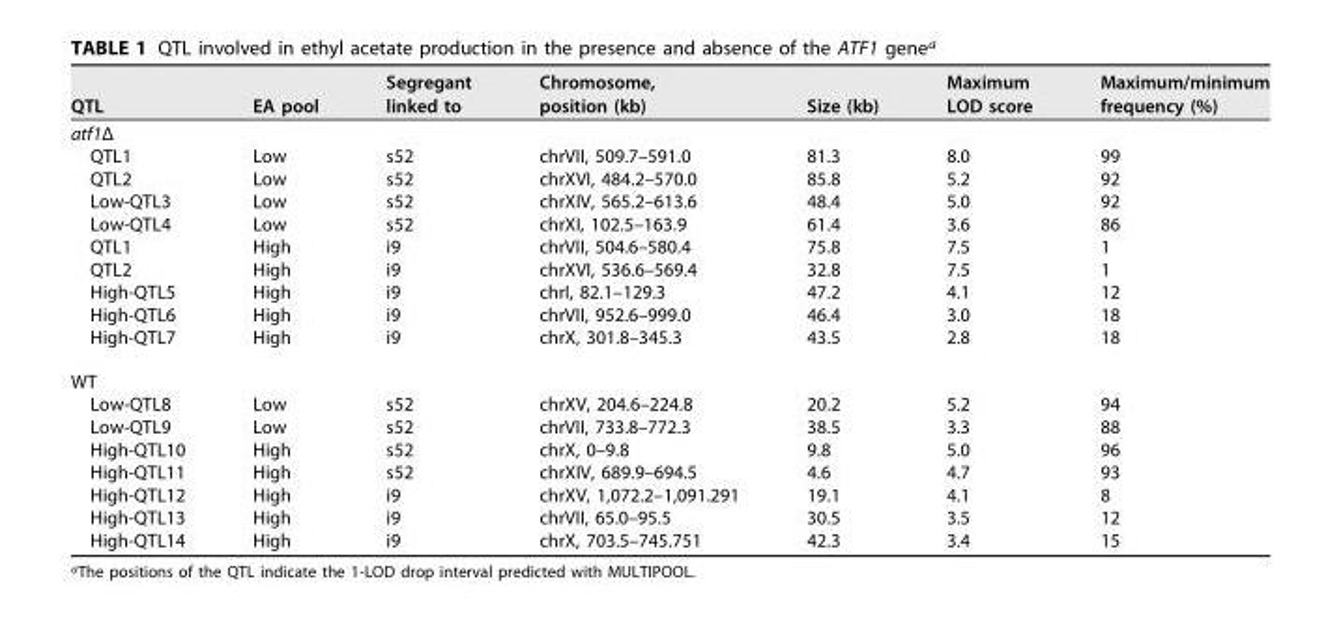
<table><thead><tr><td>QTL</td><td>EA pool</td><td>Segregant linked to</td><td>Chromosome, position (kb)</td><td>Size (kb)</td><td>Maximum LOD score</td><td>Maximum/minimum frequency (%)</td></tr></thead><tbody><tr><td colspan="7">atf1Δ</td></tr><tr><td>QTL1</td><td>Low</td><td>s52</td><td>chrVII, 509.7–591.0</td><td>81.3</td><td>8.0</td><td>99</td></tr><tr><td>QTL2</td><td>Low</td><td>s52</td><td>chrXVI, 484.2–570.0</td><td>85.8</td><td>5.2</td><td>92</td></tr><tr><td>Low-QTL3</td><td>Low</td><td>s52</td><td>chrXIV, 565.2–613.6</td><td>48.4</td><td>5.0</td><td>92</td></tr><tr><td>Low-QTL4</td><td>Low</td><td>s52</td><td>chrXI, 102.5–163.9</td><td>61.4</td><td>3.6</td><td>86</td></tr><tr><td>QTL1</td><td>High</td><td>i9</td><td>chrVII, 504.6–580.4</td><td>75.8</td><td>7.5</td><td>1</td></tr><tr><td>QTL2</td><td>High</td><td>i9</td><td>chrXVI, 536.6–569.4</td><td>32.8</td><td>7.5</td><td>1</td></tr><tr><td>High-QTL5</td><td>High</td><td>i9</td><td>chrI, 82.1–129.3</td><td>47.2</td><td>4.1</td><td>12</td></tr><tr><td>High-QTL6</td><td>High</td><td>i9</td><td>chrVII, 952.6–999.0</td><td>46.4</td><td>3.0</td><td>18</td></tr><tr><td>High-QTL7</td><td>High</td><td>i9</td><td>chrX, 301.8–345.3</td><td>43.5</td><td>2.8</td><td>18</td></tr><tr><td colspan="7">WT</td></tr><tr><td>Low-QTL8</td><td>Low</td><td>s52</td><td>chrXV, 204.6–224.8</td><td>20.2</td><td>5.2</td><td>94</td></tr><tr><td>Low-QTL9</td><td>Low</td><td>s52</td><td>chrVII, 733.8–772.3</td><td>38.5</td><td>3.3</td><td>88</td></tr><tr><td>High-QTL10</td><td>High</td><td>s52</td><td>chrX, 0–9.8</td><td>9.8</td><td>5.0</td><td>96</td></tr><tr><td>High-QTL11</td><td>High</td><td>s52</td><td>chrXIV, 689.9–694.5</td><td>4.6</td><td>4.7</td><td>93</td></tr><tr><td>High-QTL12</td><td>High</td><td>i9</td><td>chrXV, 1,072.2–1,091.291</td><td>19.1</td><td>4.1</td><td>8</td></tr><tr><td>High-QTL13</td><td>High</td><td>i9</td><td>chrVII, 65.0–95.5</td><td>30.5</td><td>3.5</td><td>12</td></tr><tr><td>High-QTL14</td><td>High</td><td>i9</td><td>chrX, 703.5–745.751</td><td>42.3</td><td>3.4</td><td>15</td></tr></tbody></table>